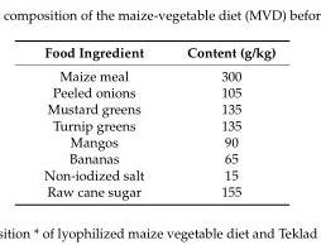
<table><thead><tr><td>Food Ingredient</td><td>Content (g/kg)</td></tr></thead><tbody><tr><td>Maize meal</td><td>300</td></tr><tr><td>Peeled onions</td><td>105</td></tr><tr><td>Mustard greens</td><td>135</td></tr><tr><td>Turnip greens</td><td>135</td></tr><tr><td>Mangos</td><td>90</td></tr><tr><td>Bananas</td><td>65</td></tr><tr><td>Non-iodized salt</td><td>15</td></tr><tr><td>Raw cane sugar</td><td>155</td></tr></tbody></table>